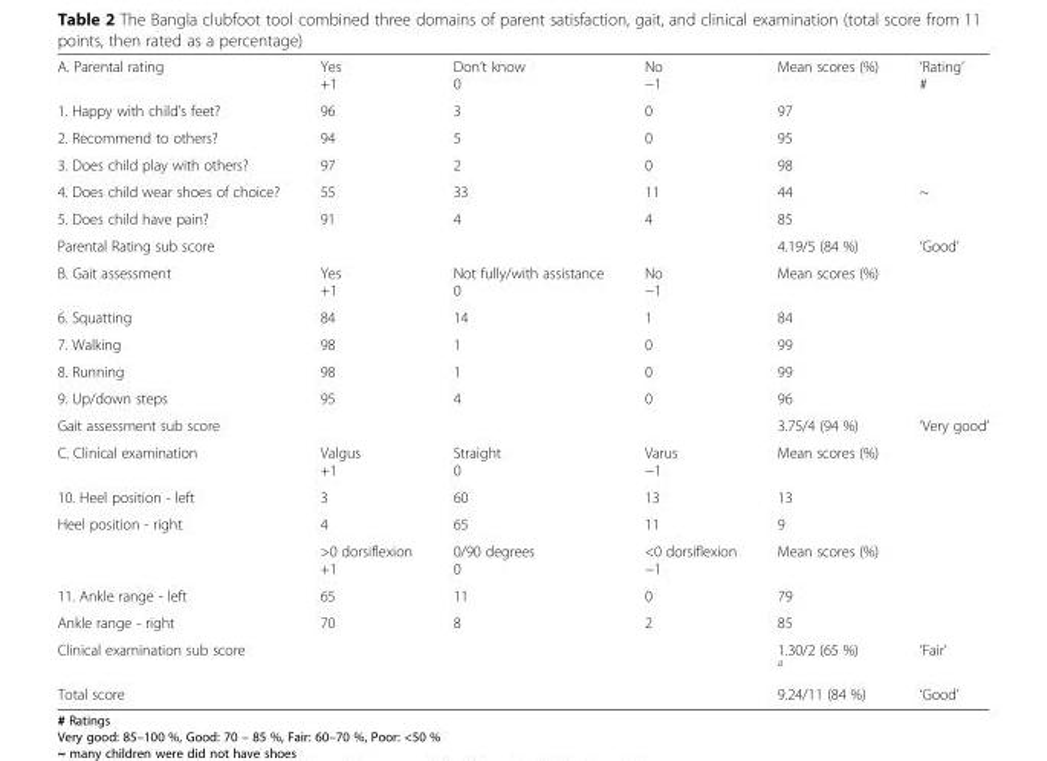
<table><tbody><tr><td>A. Parental rating</td><td>Yes +1</td><td>Don’t know 0</td><td>No −1</td><td>Mean scores (%)</td><td>‘Rating’ #</td></tr><tr><td>1. Happy with child’s feet?</td><td>96</td><td>3</td><td>0</td><td>97</td><td></td></tr><tr><td>2. Recommend to others?</td><td>94</td><td>5</td><td>0</td><td>95</td><td></td></tr><tr><td>3. Does child play with others?</td><td>97</td><td>2</td><td>0</td><td>98</td><td></td></tr><tr><td>4. Does child wear shoes of choice?</td><td>55</td><td>33</td><td>11</td><td>44</td><td>~</td></tr><tr><td>5. Does child have pain?</td><td>91</td><td>4</td><td>4</td><td>85</td><td></td></tr><tr><td>Parental Rating sub score</td><td></td><td></td><td></td><td>4.19/5 (84 %)</td><td>‘Good’</td></tr><tr><td>B. Gait assessment</td><td>Yes +1</td><td>Not fully/with assistance 0</td><td>No −1</td><td>Mean scores (%)</td><td></td></tr><tr><td>6. Squatting</td><td>84</td><td>14</td><td>1</td><td>84</td><td></td></tr><tr><td>7. Walking</td><td>98</td><td>1</td><td>0</td><td>99</td><td></td></tr><tr><td>8. Running</td><td>98</td><td>1</td><td>0</td><td>99</td><td></td></tr><tr><td>9. Up/down steps</td><td>95</td><td>4</td><td>0</td><td>96</td><td></td></tr><tr><td>Gait assessment sub score</td><td></td><td></td><td></td><td>3.75/4 (94 %)</td><td>‘Very good’</td></tr><tr><td>C. Clinical examination</td><td>Valgus +1</td><td>Straight 0</td><td>Varus −1</td><td>Mean scores (%)</td><td></td></tr><tr><td>10. Heel position - left</td><td>3</td><td>60</td><td>13</td><td>13</td><td></td></tr><tr><td rowspan="2">Heel position - right</td><td>4</td><td>65</td><td>11</td><td>9</td><td></td></tr><tr><td>&gt;0 dorsiflexion +1</td><td>0/90 degrees 0</td><td>&lt;0 dorsiflexion −1</td><td>Mean scores (%)</td><td></td></tr><tr><td>11. Ankle range - left</td><td>65</td><td>11</td><td>0</td><td>79</td><td></td></tr><tr><td>Ankle range - right</td><td>70</td><td>8</td><td>2</td><td>85</td><td></td></tr><tr><td>Clinical examination sub score</td><td></td><td></td><td></td><td>1.30/2 (65 %) <sup>a</sup></td><td>‘Fair’</td></tr><tr><td>Total score</td><td></td><td></td><td></td><td>9.24/11 (84 %)</td><td>‘Good’</td></tr></tbody></table>